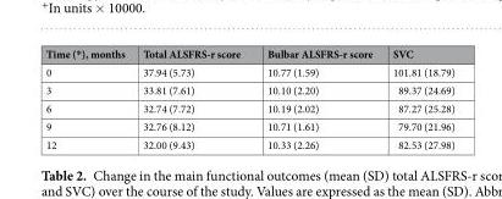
<table><thead><tr><td>Time (*), months</td><td>Total ALSFRS-r score</td><td>Bulbar ALSFRS-r score</td><td>SVC</td></tr></thead><tbody><tr><td>0</td><td>37.94 (5.73)</td><td>10.77 (1.59)</td><td>101.81 (18.79)</td></tr><tr><td>3</td><td>33.81 (7.61)</td><td>10.10 (2.20)</td><td>89.37 (24.69)</td></tr><tr><td>6</td><td>32.74 (7.72)</td><td>10.19 (2.02)</td><td>87.27 (25.28)</td></tr><tr><td>9</td><td>32.76 (8.12)</td><td>10.71 (1.61)</td><td>79.70 (21.96)</td></tr><tr><td>12</td><td>32.00 (9.43)</td><td>10.33 (2.26)</td><td>82.53 (27.98)</td></tr></tbody></table>